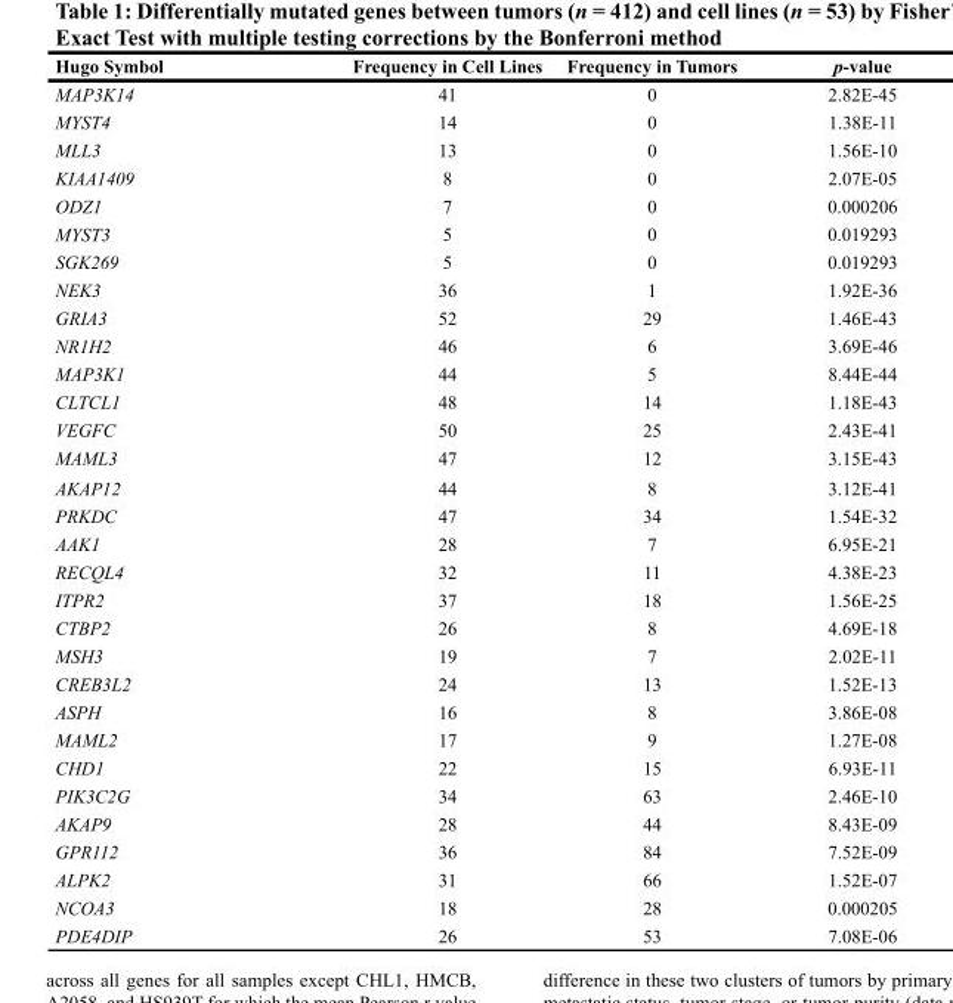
<table><thead><tr><td>Hugo Symbol</td><td>Frequency in Cell Lines</td><td>Frequency in Tumors</td><td>p-value</td></tr></thead><tbody><tr><td>MAP3K14</td><td>41</td><td>0</td><td>2.82E-45</td></tr><tr><td>MYST4</td><td>14</td><td>0</td><td>1.38E-11</td></tr><tr><td>MLL3</td><td>13</td><td>0</td><td>1.56E-10</td></tr><tr><td>KIAA1409</td><td>8</td><td>0</td><td>2.07E-05</td></tr><tr><td>ODZ1</td><td>7</td><td>0</td><td>0.000206</td></tr><tr><td>MYST3</td><td>5</td><td>0</td><td>0.019293</td></tr><tr><td>SGK269</td><td>5</td><td>0</td><td>0.019293</td></tr><tr><td>NEK3</td><td>36</td><td>1</td><td>1.92E-36</td></tr><tr><td>GRIA3</td><td>52</td><td>29</td><td>1.46E-43</td></tr><tr><td>NR1H2</td><td>46</td><td>6</td><td>3.69E-46</td></tr><tr><td>MAP3K1</td><td>44</td><td>5</td><td>8.44E-44</td></tr><tr><td>CLTCL1</td><td>48</td><td>14</td><td>1.18E-43</td></tr><tr><td>VEGFC</td><td>50</td><td>25</td><td>2.43E-41</td></tr><tr><td>MAML3</td><td>47</td><td>12</td><td>3.15E-43</td></tr><tr><td>AKAP12</td><td>44</td><td>8</td><td>3.12E-41</td></tr><tr><td>PRKDC</td><td>47</td><td>34</td><td>1.54E-32</td></tr><tr><td>AAK1</td><td>28</td><td>7</td><td>6.95E-21</td></tr><tr><td>RECQL4</td><td>32</td><td>11</td><td>4.38E-23</td></tr><tr><td>ITPR2</td><td>37</td><td>18</td><td>1.56E-25</td></tr><tr><td>CTBP2</td><td>26</td><td>8</td><td>4.69E-18</td></tr><tr><td>MSH3</td><td>19</td><td>7</td><td>2.02E-11</td></tr><tr><td>CREB3L2</td><td>24</td><td>13</td><td>1.52E-13</td></tr><tr><td>ASPH</td><td>16</td><td>8</td><td>3.86E-08</td></tr><tr><td>MAML2</td><td>17</td><td>9</td><td>1.27E-08</td></tr><tr><td>CHD1</td><td>22</td><td>15</td><td>6.93E-11</td></tr><tr><td>PIK3C2G</td><td>34</td><td>63</td><td>2.46E-10</td></tr><tr><td>AKAP9</td><td>28</td><td>44</td><td>8.43E-09</td></tr><tr><td>GPR112</td><td>36</td><td>84</td><td>7.52E-09</td></tr><tr><td>ALPK2</td><td>31</td><td>66</td><td>1.52E-07</td></tr><tr><td>NCOA3</td><td>18</td><td>28</td><td>0.000205</td></tr><tr><td>PDE4DIP</td><td>26</td><td>53</td><td>7.08E-06</td></tr></tbody></table>